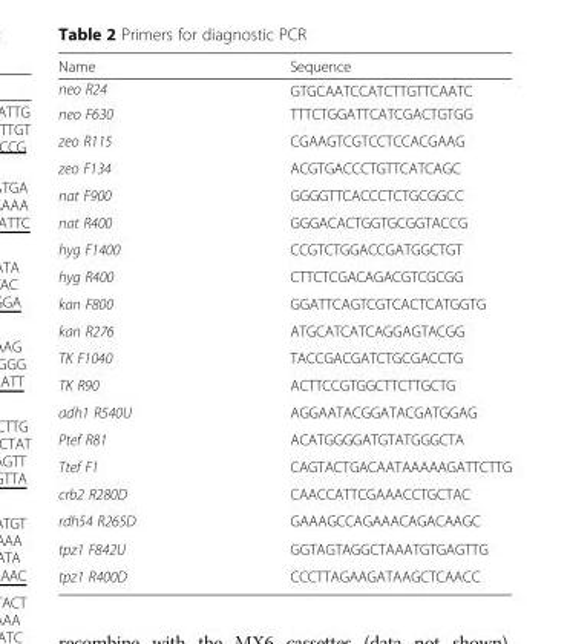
<table><thead><tr><td>Name</td><td>Sequence</td></tr></thead><tbody><tr><td>neo R24</td><td>GTGCAATCCATCTTGTTCAATC</td></tr><tr><td>neo F630</td><td>TTTCTGGATTCATCGACTGTGG</td></tr><tr><td>zeo R115</td><td>CGAAGTCGTCCTCCACGAAG</td></tr><tr><td>zeo F134</td><td>ACGTGACCCTGTTCATCAGC</td></tr><tr><td>nat F900</td><td>GGGGTTCACCCTCTGCGGCC</td></tr><tr><td>nat R400</td><td>GGGACACTGGTGCGGTACCG</td></tr><tr><td>hyg F1400</td><td>CCGTCTGGACCGATGGCTGT</td></tr><tr><td>hyg R400</td><td>CTTCTCGACAGACGTCGCGG</td></tr><tr><td>kan F800</td><td>GGATTCAGTCGTCACTCATGGTG</td></tr><tr><td>kan R276</td><td>ATGCATCATCAGGAGTACGG</td></tr><tr><td>TK F1040</td><td>TACCGACGATCTGCGACCTG</td></tr><tr><td>TK R90</td><td>ACTTCCGTGGCTTCTTGCTG</td></tr><tr><td>adh1 R540U</td><td>AGGAATACGGATACGATGGAG</td></tr><tr><td>Ptef R81</td><td>ACATGGGGATGTATGGGCTA</td></tr><tr><td>Ttef F1</td><td>CAGTACTGACAATAAAAAGATTCTTG</td></tr><tr><td>crb2 R280D</td><td>CAACCATTCGAAACCTGCTAC</td></tr><tr><td>rdh54 R265D</td><td>GAAAGCCAGAAACAGACAAGC</td></tr><tr><td>tpz1 F842U</td><td>GGTAGTAGGCTAAATGTGAGTTG</td></tr><tr><td>tpz1 R400D</td><td>CCCTTAGAAGATAAGCTCAACC</td></tr></tbody></table>